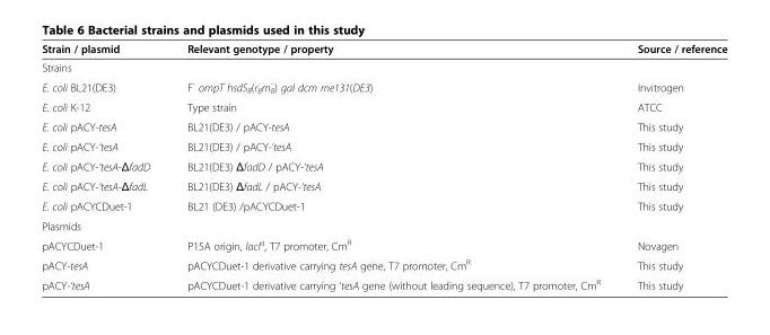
<table><thead><tr><td>Strain / plasmid</td><td>Relevant genotype / property</td><td>Source / reference</td></tr></thead><tbody><tr><td colspan="3">Strains</td></tr><tr><td>E. coli BL21(DE3)</td><td>F<sup>-</sup> ompT hsdS<sub>B</sub>(r<sub>B</sub> <sup>-</sup>m<sub>B</sub> <sup>-</sup>) gal dcm rne131(DE3)</td><td>Invitrogen</td></tr><tr><td>E. coli K-12</td><td>Type strain</td><td>ATCC</td></tr><tr><td>E. coli pACY-tesA</td><td>BL21(DE3) / pACY-tesA</td><td>This study</td></tr><tr><td>E. coli pACY-‘tesA</td><td>BL21(DE3) / pACY-‘tesA</td><td>This study</td></tr><tr><td>E. coli pACY-‘tesA-ΔfadD</td><td>BL21(DE3) ΔfadD / pACY-‘tesA</td><td>This study</td></tr><tr><td>E. coli pACY-‘tesA-ΔfadL</td><td>BL21(DE3) ΔfadL / pACY-‘tesA</td><td>This study</td></tr><tr><td>E. coli pACYCDuet-1</td><td>BL21 (DE3) /pACYCDuet-1</td><td>This study</td></tr><tr><td colspan="3">Plasmids</td></tr><tr><td>pACYCDuet-1</td><td>P15A origin, lacI<sup>q</sup>, T7 promoter, Cm<sup>R</sup></td><td>Novagen</td></tr><tr><td>pACY-tesA</td><td>pACYCDuet-1 derivative carrying tesA gene, T7 promoter, Cm<sup>R</sup></td><td>This study</td></tr><tr><td>pACY-‘tesA</td><td>pACYCDuet-1 derivative carrying ‘tesA gene (without leading sequence), T7 promoter, Cm<sup>R</sup></td><td>This study</td></tr></tbody></table>